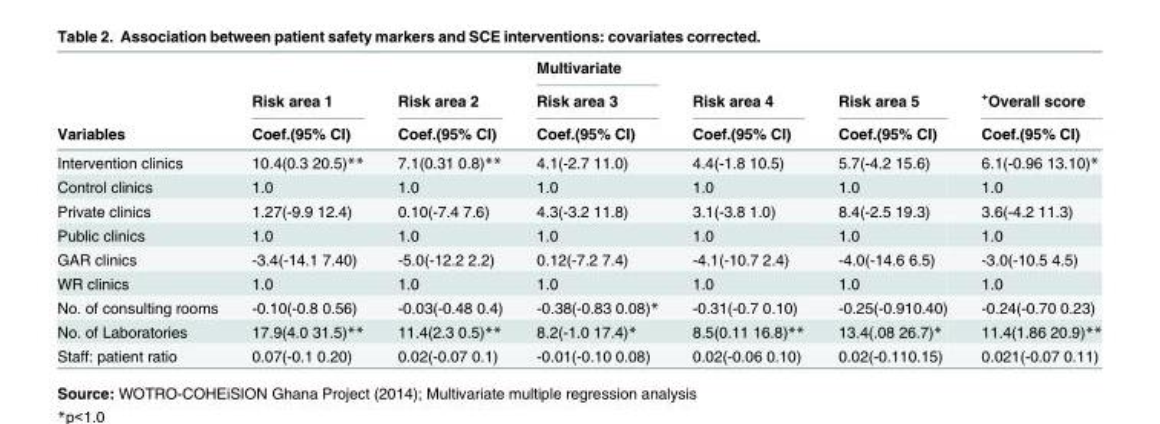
<table><thead><tr><td rowspan="3">Variables</td><td rowspan="3">Risk area 1 Coef.(95% CI)</td><td rowspan="3">Risk area 2 Coef.(95% CI)</td><td rowspan="3">Multivariate Risk area 3 Coef.(95% CI)</td><td rowspan="3">Risk area 4 Coef.(95% CI)</td><td rowspan="3">Risk area 5 Coef.(95% CI)</td><td rowspan="3"><sup>+</sup>Overall score Coef.(95% CI)</td></tr><tr></tr><tr></tr></thead><tbody><tr><td>Intervention clinics</td><td>10.4(0.3 20.5)**</td><td>7.1(0.31 0.8)**</td><td>4.1(-2.7 11.0)</td><td>4.4(-1.8 10.5)</td><td>5.7(-4.2 15.6)</td><td>6.1(-0.96 13.10)*</td></tr><tr><td>Control clinics</td><td>1.0</td><td>1.0</td><td>1.0</td><td>1.0</td><td>1.0</td><td>1.0</td></tr><tr><td>Private clinics</td><td>1.27(-9.9 12.4)</td><td>0.10(-7.4 7.6)</td><td>4.3(-3.2 11.8)</td><td>3.1(-3.8 1.0)</td><td>8.4(-2.5 19.3)</td><td>3.6(-4.2 11.3)</td></tr><tr><td>Public clinics</td><td>1.0</td><td>1.0</td><td>1.0</td><td>1.0</td><td>1.0</td><td>1.0</td></tr><tr><td>GAR clinics</td><td>-3.4(-14.1 7.40)</td><td>-5.0(-12.2 2.2)</td><td>0.12(-7.2 7.4)</td><td>-4.1(-10.7 2.4)</td><td>-4.0(-14.6 6.5)</td><td>-3.0(-10.5 4.5)</td></tr><tr><td>WR clinics</td><td>1.0</td><td>1.0</td><td>1.0</td><td>1.0</td><td>1.0</td><td>1.0</td></tr><tr><td>No. of consulting rooms</td><td>-0.10(-0.8 0.56)</td><td>-0.03(-0.48 0.4)</td><td>-0.38(-0.83 0.08)*</td><td>-0.31(-0.7 0.10)</td><td>-0.25(-0.910.40)</td><td>-0.24(-0.70 0.23)</td></tr><tr><td>No. of Laboratories</td><td>17.9(4.0 31.5)**</td><td>11.4(2.3 0.5)**</td><td>8.2(-1.0 17.4)*</td><td>8.5(0.11 16.8)**</td><td>13.4(.08 26.7)*</td><td>11.4(1.86 20.9)**</td></tr><tr><td>Staff: patient ratio</td><td>0.07(-0.1 0.20)</td><td>0.02(-0.07 0.1)</td><td>-0.01(-0.10 0.08)</td><td>0.02(-0.06 0.10)</td><td>0.02(-0.110.15)</td><td>0.021(-0.07 0.11)</td></tr></tbody></table>